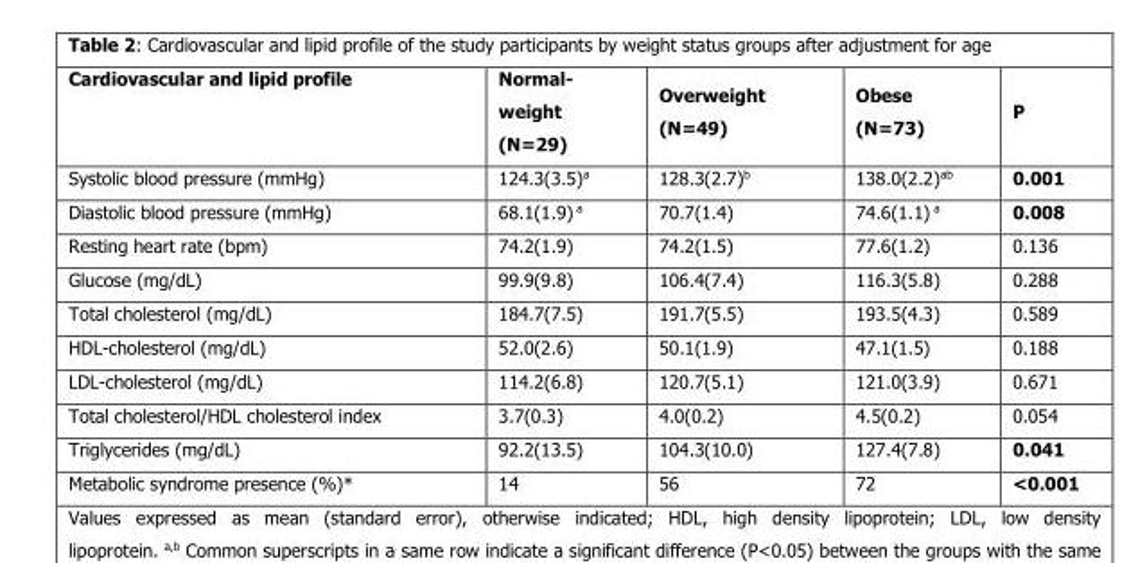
<table><thead><tr><td>Cardiovascular and lipid profile</td><td>Normal- weight (N=29)</td><td>Overweight (N=49)</td><td>Obese (N=73)</td><td>P</td></tr></thead><tbody><tr><td>Systolic blood pressure (mmHg)</td><td>124.3(3.5)<sup>a</sup></td><td>128.3(2.7)<sup>b</sup></td><td>138.0(2.2)<sup>ab</sup></td><td>0.001</td></tr><tr><td>Diastolic blood pressure (mmHg)</td><td>68.1(1.9) a</td><td>70.7(1.4)</td><td>74.6(1.1) a</td><td>0.008</td></tr><tr><td>Resting heart rate (bpm)</td><td>74.2(1.9)</td><td>74.2(1.5)</td><td>77.6(1.2)</td><td>0.136</td></tr><tr><td>Glucose (mg/dL)</td><td>99.9(9.8)</td><td>106.4(7.4)</td><td>116.3(5.8)</td><td>0.288</td></tr><tr><td>Total cholesterol (mg/dL)</td><td>184.7(7.5)</td><td>191.7(5.5)</td><td>193.5(4.3)</td><td>0.589</td></tr><tr><td>HDL-cholesterol (mg/dL)</td><td>52.0(2.6)</td><td>50.1(1.9)</td><td>47.1(1.5)</td><td>0.188</td></tr><tr><td>LDL-cholesterol (mg/dL)</td><td>114.2(6.8)</td><td>120.7(5.1)</td><td>121.0(3.9)</td><td>0.671</td></tr><tr><td>Total cholesterol/HDL cholesterol index</td><td>3.7(0.3)</td><td>4.0(0.2)</td><td>4.5(0.2)</td><td>0.054</td></tr><tr><td>Triglycerides (mg/dL)</td><td>92.2(13.5)</td><td>104.3(10.0)</td><td>127.4(7.8)</td><td>0.041</td></tr><tr><td>Metabolic syndrome presence (%)*</td><td>14</td><td>56</td><td>72</td><td>&lt;0.001</td></tr></tbody></table>